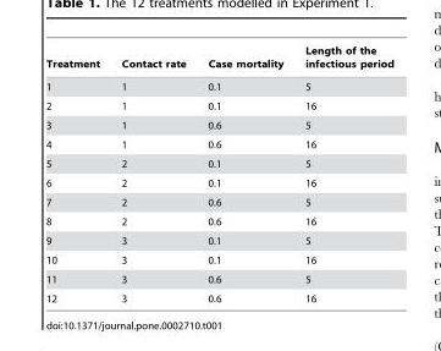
<table><thead><tr><td>Treatment</td><td>Contact rate</td><td>Case mortality</td><td>Length of the infectious period</td></tr></thead><tbody><tr><td>1</td><td>1</td><td>0.1</td><td>5</td></tr><tr><td>2</td><td>1</td><td>0.1</td><td>16</td></tr><tr><td>3</td><td>1</td><td>0.6</td><td>5</td></tr><tr><td>4</td><td>1</td><td>0.6</td><td>16</td></tr><tr><td>5</td><td>2</td><td>0.1</td><td>5</td></tr><tr><td>6</td><td>2</td><td>0.1</td><td>16</td></tr><tr><td>7</td><td>2</td><td>0.6</td><td>5</td></tr><tr><td>8</td><td>2</td><td>0.6</td><td>16</td></tr><tr><td>9</td><td>3</td><td>0.1</td><td>5</td></tr><tr><td>10</td><td>3</td><td>0.1</td><td>16</td></tr><tr><td>11</td><td>3</td><td>0.6</td><td>5</td></tr><tr><td>12</td><td>3</td><td>0.6</td><td>16</td></tr></tbody></table>